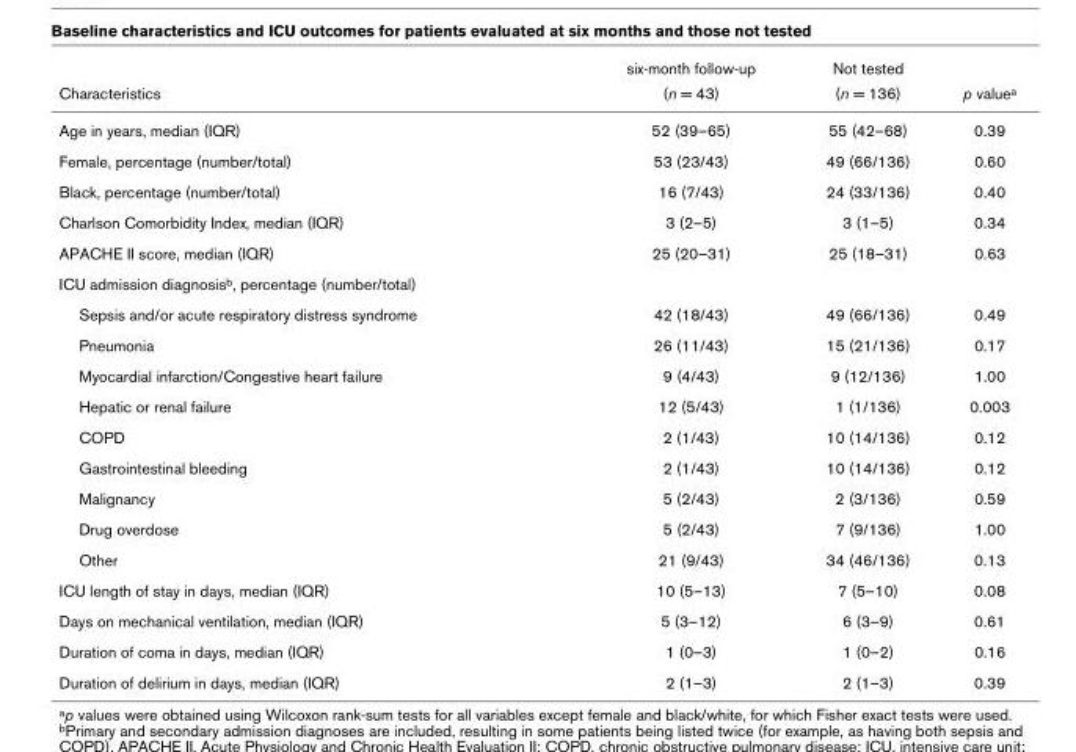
<table><thead><tr><td rowspan="2">Characteristics</td><td rowspan="2">six-month follow-up (n = 43)</td><td rowspan="2">Not tested (n = 136)</td><td rowspan="2">p value<sup>a</sup></td></tr><tr></tr></thead><tbody><tr><td>Age in years, median (IQR)</td><td>52 (39–65)</td><td>55 (42–68)</td><td>0.39</td></tr><tr><td>Female, percentage (number/total)</td><td>53 (23/43)</td><td>49 (66/136)</td><td>0.60</td></tr><tr><td>Black, percentage (number/total)</td><td>16 (7/43)</td><td>24 (33/136)</td><td>0.40</td></tr><tr><td>Charlson Comorbidity Index, median (IQR)</td><td>3 (2–5)</td><td>3 (1–5)</td><td>0.34</td></tr><tr><td>APACHE II score, median (IQR)</td><td>25 (20–31)</td><td>25 (18–31)</td><td>0.63</td></tr><tr><td colspan="4">ICU admission diagnosis<sup>b</sup>, percentage (number/total)</td></tr><tr><td>Sepsis and/or acute respiratory distress syndrome</td><td>42 (18/43)</td><td>49 (66/136)</td><td>0.49</td></tr><tr><td>Pneumonia</td><td>26 (11/43)</td><td>15 (21/136)</td><td>0.17</td></tr><tr><td>Myocardial infarction/Congestive heart failure</td><td>9 (4/43)</td><td>9 (12/136)</td><td>1.00</td></tr><tr><td>Hepatic or renal failure</td><td>12 (5/43)</td><td>1 (1/136)</td><td>0.003</td></tr><tr><td>COPD</td><td>2 (1/43)</td><td>10 (14/136)</td><td>0.12</td></tr><tr><td>Gastrointestinal bleeding</td><td>2 (1/43)</td><td>10 (14/136)</td><td>0.12</td></tr><tr><td>Malignancy</td><td>5 (2/43)</td><td>2 (3/136)</td><td>0.59</td></tr><tr><td>Drug overdose</td><td>5 (2/43)</td><td>7 (9/136)</td><td>1.00</td></tr><tr><td>Other</td><td>21 (9/43)</td><td>34 (46/136)</td><td>0.13</td></tr><tr><td>ICU length of stay in days, median (IQR)</td><td>10 (5–13)</td><td>7 (5–10)</td><td>0.08</td></tr><tr><td>Days on mechanical ventilation, median (IQR)</td><td>5 (3–12)</td><td>6 (3–9)</td><td>0.61</td></tr><tr><td>Duration of coma in days, median (IQR)</td><td>1 (0–3)</td><td>1 (0–2)</td><td>0.16</td></tr><tr><td>Duration of delirium in days, median (IQR)</td><td>2 (1–3)</td><td>2 (1–3)</td><td>0.39</td></tr></tbody></table>